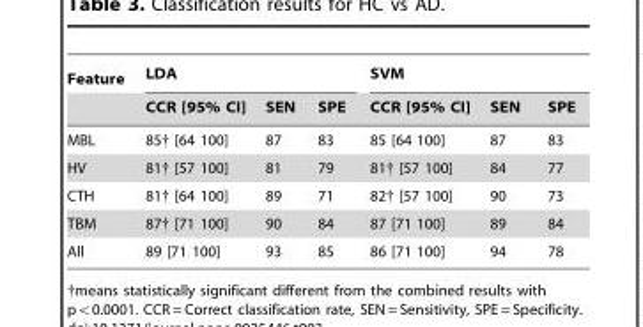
<table><thead><tr><td rowspan="2">Feature</td><td colspan="3">LDA</td><td colspan="3">SVM</td></tr><tr><td>CCR [95% CI]</td><td>SEN</td><td>SPE</td><td>CCR [95% CI]</td><td>SEN</td><td>SPE</td></tr></thead><tbody><tr><td>MBL</td><td>85† [64 100]</td><td>87</td><td>83</td><td>85 [64 100]</td><td>87</td><td>83</td></tr><tr><td>HV</td><td>81† [57 100]</td><td>81</td><td>79</td><td>81† [57 100]</td><td>84</td><td>77</td></tr><tr><td>CTH</td><td>81† [64 100]</td><td>89</td><td>71</td><td>82† [57 100]</td><td>90</td><td>73</td></tr><tr><td>TBM</td><td>87† [71 100]</td><td>90</td><td>84</td><td>87 [71 100]</td><td>89</td><td>84</td></tr><tr><td>All</td><td>89 [71 100]</td><td>93</td><td>85</td><td>86 [71 100]</td><td>94</td><td>78</td></tr></tbody></table>